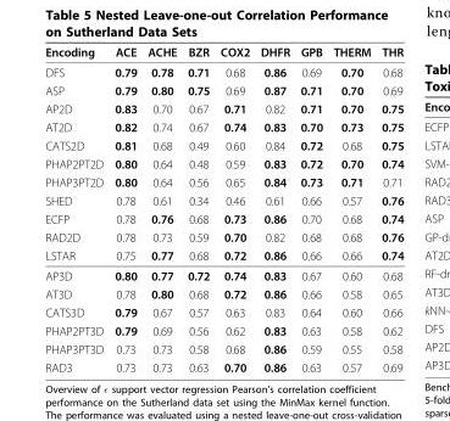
<table><thead><tr><td>Encoding</td><td>ACE</td><td>ACHE</td><td>BZR</td><td>COX2</td><td>DHFR</td><td>GPB</td><td>THERM</td><td>THR</td></tr></thead><tbody><tr><td>DFS</td><td>0.79</td><td>0.78</td><td>0.71</td><td>0.68</td><td>0.86</td><td>0.69</td><td>0.70</td><td>0.68</td></tr><tr><td>ASP</td><td>0.79</td><td>0.80</td><td>0.75</td><td>0.69</td><td>0.87</td><td>0.71</td><td>0.70</td><td>0.69</td></tr><tr><td>AP2D</td><td>0.83</td><td>0.70</td><td>0.67</td><td>0.71</td><td>0.82</td><td>0.71</td><td>0.70</td><td>0.75</td></tr><tr><td>AT2D</td><td>0.82</td><td>0.74</td><td>0.67</td><td>0.74</td><td>0.83</td><td>0.70</td><td>0.73</td><td>0.75</td></tr><tr><td>CATS2D</td><td>0.81</td><td>0.68</td><td>0.49</td><td>0.60</td><td>0.84</td><td>0.72</td><td>0.68</td><td>0.75</td></tr><tr><td>PHAP2PT2D</td><td>0.80</td><td>0.64</td><td>0.48</td><td>0.59</td><td>0.83</td><td>0.72</td><td>0.70</td><td>0.74</td></tr><tr><td>PHAP3PT2D</td><td>0.80</td><td>0.64</td><td>0.56</td><td>0.65</td><td>0.84</td><td>0.73</td><td>0.71</td><td>0.71</td></tr><tr><td>SHED</td><td>0.78</td><td>0.61</td><td>0.34</td><td>0.46</td><td>0.61</td><td>0.66</td><td>0.57</td><td>0.76</td></tr><tr><td>ECFP</td><td>0.78</td><td>0.76</td><td>0.68</td><td>0.73</td><td>0.86</td><td>0.70</td><td>0.68</td><td>0.74</td></tr><tr><td>RAD2D</td><td>0.78</td><td>0.73</td><td>0.59</td><td>0.70</td><td>0.82</td><td>0.68</td><td>0.68</td><td>0.76</td></tr><tr><td>LSTAR</td><td>0.75</td><td>0.77</td><td>0.68</td><td>0.72</td><td>0.86</td><td>0.66</td><td>0.66</td><td>0.74</td></tr><tr><td>AP3D</td><td>0.80</td><td>0.77</td><td>0.72</td><td>0.74</td><td>0.83</td><td>0.67</td><td>0.60</td><td>0.68</td></tr><tr><td>AT3D</td><td>0.78</td><td>0.80</td><td>0.68</td><td>0.72</td><td>0.86</td><td>0.66</td><td>0.58</td><td>0.65</td></tr><tr><td>CATS3D</td><td>0.79</td><td>0.67</td><td>0.57</td><td>0.63</td><td>0.83</td><td>0.64</td><td>0.60</td><td>0.66</td></tr><tr><td>PHAP2PT3D</td><td>0.79</td><td>0.69</td><td>0.56</td><td>0.62</td><td>0.83</td><td>0.63</td><td>0.58</td><td>0.62</td></tr><tr><td>PHAP3PT3D</td><td>0.73</td><td>0.73</td><td>0.58</td><td>0.68</td><td>0.86</td><td>0.59</td><td>0.55</td><td>0.58</td></tr><tr><td>RAD3</td><td>0.73</td><td>0.73</td><td>0.63</td><td>0.70</td><td>0.86</td><td>0.63</td><td>0.57</td><td>0.69</td></tr></tbody></table>